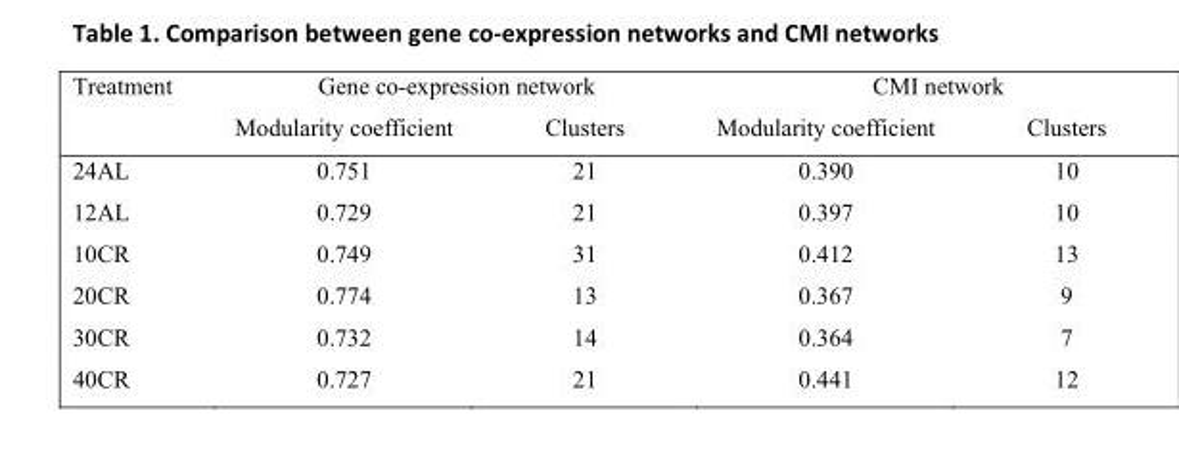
<table><thead><tr><td rowspan="2">Treatment</td><td colspan="2">Gene co-expression network</td><td colspan="2">CMI network</td></tr><tr><td>Modularity coefficient</td><td>Clusters</td><td>Modularity coefficient</td><td>Clusters</td></tr></thead><tbody><tr><td>24AL</td><td>0.751</td><td>21</td><td>0.390</td><td>10</td></tr><tr><td>12AL</td><td>0.729</td><td>21</td><td>0.397</td><td>10</td></tr><tr><td>10CR</td><td>0.749</td><td>31</td><td>0.412</td><td>13</td></tr><tr><td>20CR</td><td>0.774</td><td>13</td><td>0.367</td><td>9</td></tr><tr><td>30CR</td><td>0.732</td><td>14</td><td>0.364</td><td>7</td></tr><tr><td>40CR</td><td>0.727</td><td>21</td><td>0.441</td><td>12</td></tr></tbody></table>